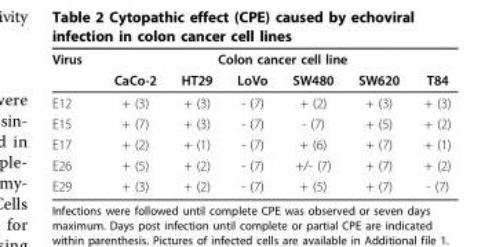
<table><thead><tr><td rowspan="2">Virus</td><td colspan="6">Colon cancer cell line</td></tr><tr><td>CaCo-2</td><td>HT29</td><td>LoVo</td><td>SW480</td><td>SW620</td><td>T84</td></tr></thead><tbody><tr><td>E12</td><td>+ (3)</td><td>+ (3)</td><td>- (7)</td><td>+ (2)</td><td>+ (3)</td><td>+ (3)</td></tr><tr><td>E15</td><td>+ (7)</td><td>+ (3)</td><td>- (7)</td><td>- (7)</td><td>+ (5)</td><td>+ (2)</td></tr><tr><td>E17</td><td>+ (2)</td><td>+ (1)</td><td>- (7)</td><td>+ (6)</td><td>+ (7)</td><td>+ (1)</td></tr><tr><td>E26</td><td>+ (5)</td><td>+ (2)</td><td>- (7)</td><td>+/- (7)</td><td>+ (7)</td><td>+ (2)</td></tr><tr><td>E29</td><td>+ (3)</td><td>+ (2)</td><td>- (7)</td><td>+ (5)</td><td>+ (7)</td><td>- (7)</td></tr></tbody></table>